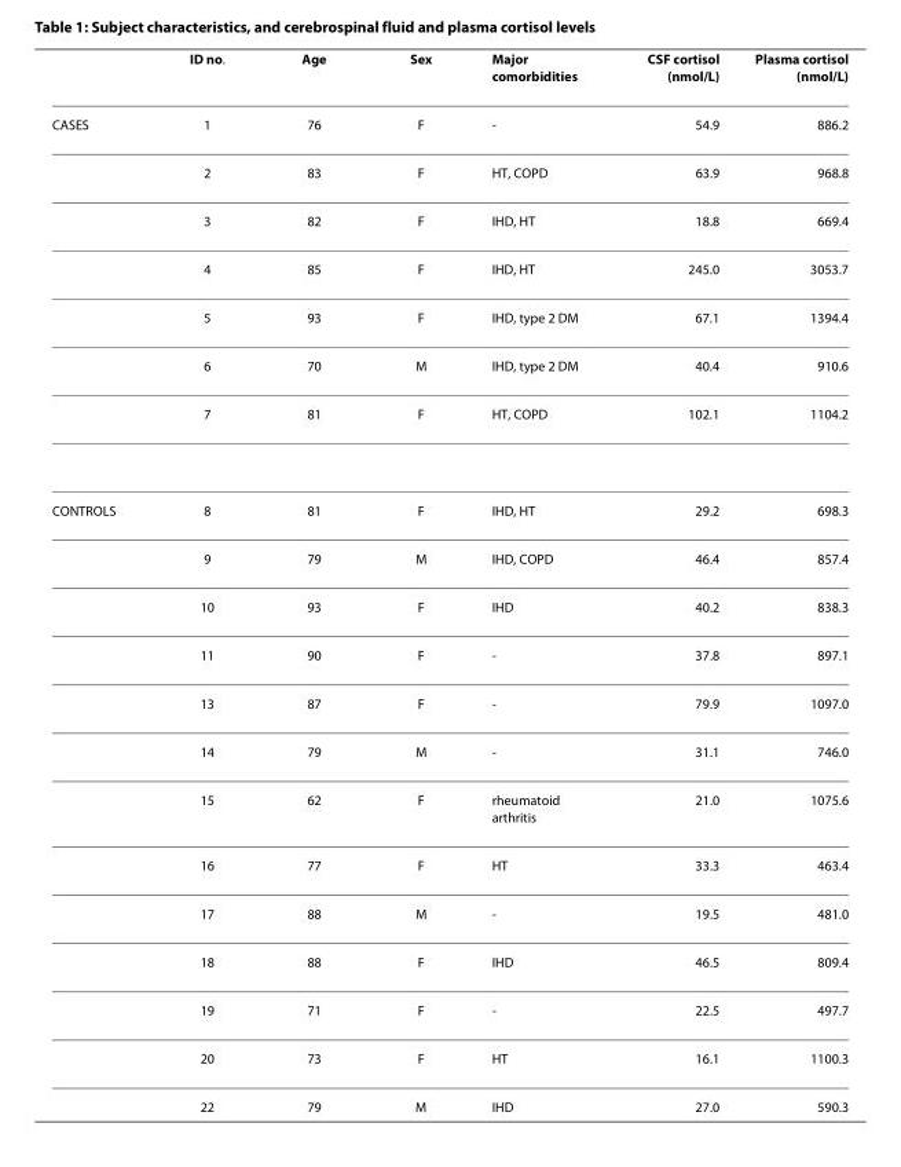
<table><thead><tr><td></td><td>ID no.</td><td>Age</td><td>Sex</td><td>Major comorbidities</td><td>CSF cortisol (nmol/L)</td><td>Plasma cortisol (nmol/L)</td></tr></thead><tbody><tr><td rowspan="7">CASES</td><td>1</td><td>76</td><td>F</td><td>-</td><td>54.9</td><td>886.2</td></tr><tr><td>2</td><td>83</td><td>F</td><td>HT, COPD</td><td>63.9</td><td>968.8</td></tr><tr><td>3</td><td>82</td><td>F</td><td>IHD, HT</td><td>18.8</td><td>669.4</td></tr><tr><td>4</td><td>85</td><td>F</td><td>IHD, HT</td><td>245.0</td><td>3053.7</td></tr><tr><td>5</td><td>93</td><td>F</td><td>IHD, type 2 DM</td><td>67.1</td><td>1394.4</td></tr><tr><td>6</td><td>70</td><td>M</td><td>IHD, type 2 DM</td><td>40.4</td><td>910.6</td></tr><tr><td>7</td><td>81</td><td>F</td><td>HT, COPD</td><td>102.1</td><td>1104.2</td></tr><tr><td rowspan="13">CONTROLS</td><td>8</td><td>81</td><td>F</td><td>IHD, HT</td><td>29.2</td><td>698.3</td></tr><tr><td>9</td><td>79</td><td>M</td><td>IHD, COPD</td><td>46.4</td><td>857.4</td></tr><tr><td>10</td><td>93</td><td>F</td><td>IHD</td><td>40.2</td><td>838.3</td></tr><tr><td>11</td><td>90</td><td>F</td><td>-</td><td>37.8</td><td>897.1</td></tr><tr><td>13</td><td>87</td><td>F</td><td>-</td><td>79.9</td><td>1097.0</td></tr><tr><td>14</td><td>79</td><td>M</td><td>-</td><td>31.1</td><td>746.0</td></tr><tr><td>15</td><td>62</td><td>F</td><td>rheumatoid arthritis</td><td>21.0</td><td>1075.6</td></tr><tr><td>16</td><td>77</td><td>F</td><td>HT</td><td>33.3</td><td>463.4</td></tr><tr><td>17</td><td>88</td><td>M</td><td>-</td><td>19.5</td><td>481.0</td></tr><tr><td>18</td><td>88</td><td>F</td><td>IHD</td><td>46.5</td><td>809.4</td></tr><tr><td>19</td><td>71</td><td>F</td><td>-</td><td>22.5</td><td>497.7</td></tr><tr><td>20</td><td>73</td><td>F</td><td>HT</td><td>16.1</td><td>1100.3</td></tr><tr><td>22</td><td>79</td><td>M</td><td>IHD</td><td>27.0</td><td>590.3</td></tr></tbody></table>